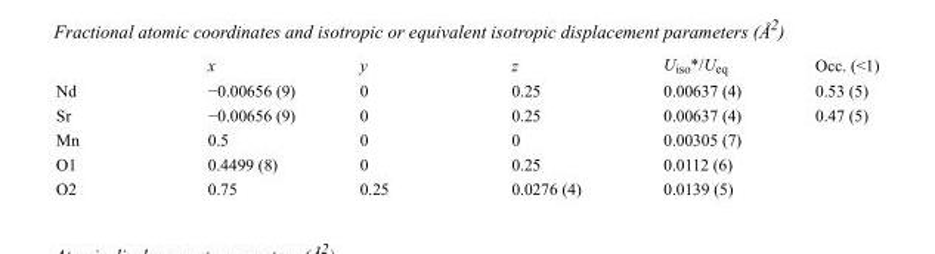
<table><thead><tr><td></td><td>x</td><td>y</td><td>z</td><td>U<sub>iso</sub>*/U<sub>eq</sub></td><td>Occ. (&lt;1)</td></tr></thead><tbody><tr><td>Nd</td><td>−0.00656 (9)</td><td>0</td><td>0.25</td><td>0.00637 (4)</td><td>0.53 (5)</td></tr><tr><td>Sr</td><td>−0.00656 (9)</td><td>0</td><td>0.25</td><td>0.00637 (4)</td><td>0.47 (5)</td></tr><tr><td>Mn</td><td>0.5</td><td>0</td><td>0</td><td>0.00305 (7)</td><td></td></tr><tr><td>O1</td><td>0.4499 (8)</td><td>0</td><td>0.25</td><td>0.0112 (6)</td><td></td></tr><tr><td>O2</td><td>0.75</td><td>0.25</td><td>0.0276 (4)</td><td>0.0139 (5)</td><td></td></tr></tbody></table>